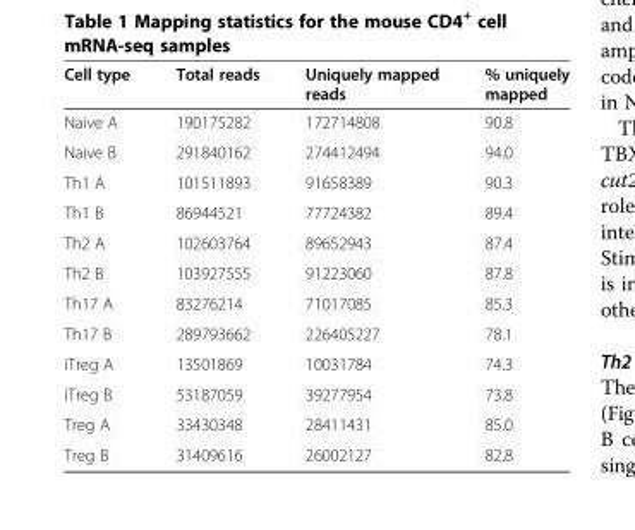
<table><thead><tr><td>Cell type</td><td>Total reads</td><td>Uniquely mapped reads</td><td>% uniquely mapped</td></tr></thead><tbody><tr><td>Naive A</td><td>190175282</td><td>172714808</td><td>90.8</td></tr><tr><td>Naive B</td><td>291840162</td><td>274412494</td><td>94.0</td></tr><tr><td>Th1 A</td><td>101511893</td><td>91658389</td><td>90.3</td></tr><tr><td>Th1 B</td><td>86944521</td><td>77724382</td><td>89.4</td></tr><tr><td>Th2 A</td><td>102603764</td><td>89652943</td><td>87.4</td></tr><tr><td>Th2 B</td><td>103927555</td><td>91223060</td><td>87.8</td></tr><tr><td>Th17 A</td><td>83276214</td><td>71017085</td><td>85.3</td></tr><tr><td>Th17 B</td><td>289793662</td><td>226405227</td><td>78.1</td></tr><tr><td>iTreg A</td><td>13501869</td><td>10031784</td><td>74.3</td></tr><tr><td>iTreg B</td><td>53187059</td><td>39277954</td><td>73.8</td></tr><tr><td>Treg A</td><td>33430348</td><td>28411431</td><td>85.0</td></tr><tr><td>Treg B</td><td>31409616</td><td>26002127</td><td>82.8</td></tr></tbody></table>